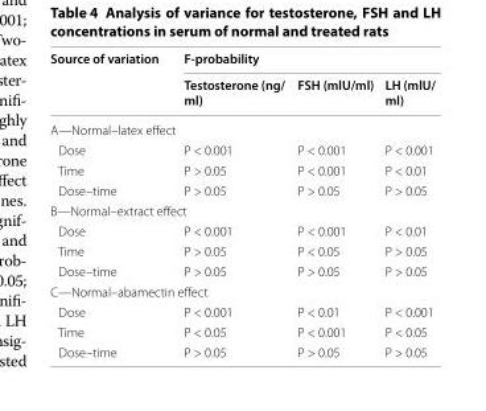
<table><thead><tr><td rowspan="2">Source of variation</td><td colspan="3">F-probability</td></tr><tr><td>Testosterone (ng/ ml)</td><td>FSH (mlU/ml)</td><td>LH (mlU/ ml)</td></tr></thead><tbody><tr><td colspan="4">A—Normal–latex effect</td></tr><tr><td>Dose</td><td>P &lt; 0.001</td><td>P &lt; 0.001</td><td>P &lt; 0.001</td></tr><tr><td>Time</td><td>P &gt; 0.05</td><td>P &lt; 0.001</td><td>P &lt; 0.01</td></tr><tr><td>Dose–time</td><td>P &gt; 0.05</td><td>P &gt; 0.05</td><td>P &gt; 0.05</td></tr><tr><td colspan="4">B—Normal–extract effect</td></tr><tr><td>Dose</td><td>P &lt; 0.001</td><td>P &lt; 0.001</td><td>P &lt; 0.01</td></tr><tr><td>Time</td><td>P &gt; 0.05</td><td>P &lt; 0.05</td><td>P &gt; 0.05</td></tr><tr><td>Dose–time</td><td>P &gt; 0.05</td><td>P &gt; 0.05</td><td>P &gt; 0.05</td></tr><tr><td colspan="4">C—Normal–abamectin effect</td></tr><tr><td>Dose</td><td>P &lt; 0.001</td><td>P &lt; 0.01</td><td>P &lt; 0.001</td></tr><tr><td>Time</td><td>P &lt; 0.05</td><td>P &lt; 0.001</td><td>P &lt; 0.05</td></tr><tr><td>Dose–time</td><td>P &gt; 0.05</td><td>P &gt; 0.05</td><td>P &gt; 0.05</td></tr></tbody></table>